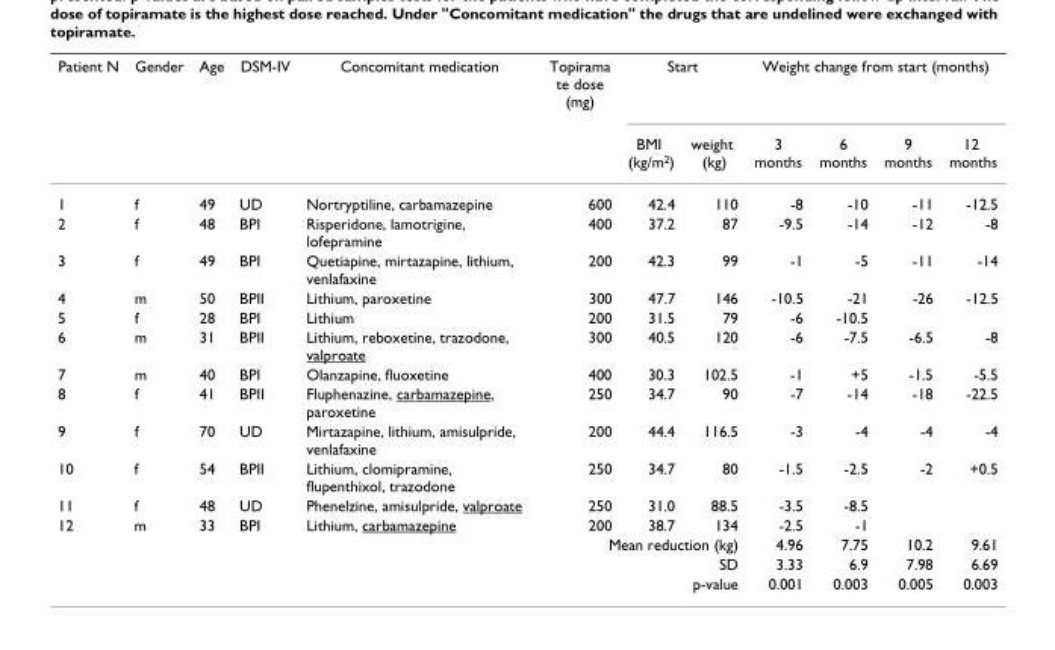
<table><thead><tr><td rowspan="2">Patient N</td><td rowspan="2">Gender</td><td rowspan="2">Age</td><td rowspan="2">DSM-IV</td><td rowspan="2">Concomitant medication</td><td rowspan="2">Topirama te dose (mg)</td><td colspan="2">Start</td><td colspan="4">Weight change from start (months)</td></tr><tr><td>BMI (kg/m<sup>2</sup>)</td><td>weight (kg)</td><td>3 months</td><td>6 months</td><td>9 months</td><td>12 months</td></tr></thead><tbody><tr><td>1</td><td>f</td><td>49</td><td>UD</td><td>Nortryptiline, carbamazepine</td><td>600</td><td>42.4</td><td>110</td><td>-8</td><td>-10</td><td>-11</td><td>-12.5</td></tr><tr><td>2</td><td>f</td><td>48</td><td>BPI</td><td>Risperidone, lamotrigine, lofepramine</td><td>400</td><td>37.2</td><td>87</td><td>-9.5</td><td>-14</td><td>-12</td><td>-8</td></tr><tr><td>3</td><td>f</td><td>49</td><td>BPI</td><td>Quetiapine, mirtazapine, lithium, venlafaxine</td><td>200</td><td>42.3</td><td>99</td><td>-1</td><td>-5</td><td>-11</td><td>-14</td></tr><tr><td>4</td><td>m</td><td>50</td><td>BPII</td><td>Lithium, paroxetine</td><td>300</td><td>47.7</td><td>146</td><td>-10.5</td><td>-21</td><td>-26</td><td>-12.5</td></tr><tr><td>5</td><td>f</td><td>28</td><td>BPI</td><td>Lithium</td><td>200</td><td>31.5</td><td>79</td><td>-6</td><td>-10.5</td><td></td><td></td></tr><tr><td>6</td><td>m</td><td>31</td><td>BPII</td><td>Lithium, reboxetine, trazodone, valproate</td><td>300</td><td>40.5</td><td>120</td><td>-6</td><td>-7.5</td><td>-6.5</td><td>-8</td></tr><tr><td>7</td><td>m</td><td>40</td><td>BPI</td><td>Olanzapine, fluoxetine</td><td>400</td><td>30.3</td><td>102.5</td><td>-1</td><td>+5</td><td>-1.5</td><td>-5.5</td></tr><tr><td>8</td><td>f</td><td>41</td><td>BPII</td><td>Fluphenazine, carbamazepine, paroxetine</td><td>250</td><td>34.7</td><td>90</td><td>-7</td><td>-14</td><td>-18</td><td>-22.5</td></tr><tr><td>9</td><td>f</td><td>70</td><td>UD</td><td>Mirtazapine, lithium, amisulpride, venlafaxine</td><td>200</td><td>44.4</td><td>116.5</td><td>-3</td><td>-4</td><td>-4</td><td>-4</td></tr><tr><td>10</td><td>f</td><td>54</td><td>BPII</td><td>Lithium, clomipramine, flupenthixol, trazodone</td><td>250</td><td>34.7</td><td>80</td><td>-1.5</td><td>-2.5</td><td>-2</td><td>+0.5</td></tr><tr><td>11</td><td>f</td><td>48</td><td>UD</td><td>Phenelzine, amisulpride, valproate</td><td>250</td><td>31.0</td><td>88.5</td><td>-3.5</td><td>-8.5</td><td></td><td></td></tr><tr><td>12</td><td>m</td><td>33</td><td>BPI</td><td>Lithium, carbamazepine</td><td>200</td><td>38.7</td><td>134</td><td>-2.5</td><td>-1</td><td></td><td></td></tr><tr><td colspan="8">Mean reduction (kg)</td><td>4.96</td><td>7.75</td><td>10.2</td><td>9.61</td></tr><tr><td colspan="8">SD</td><td>3.33</td><td>6.9</td><td>7.98</td><td>6.69</td></tr><tr><td colspan="8">p-value</td><td>0.001</td><td>0.003</td><td>0.005</td><td>0.003</td></tr></tbody></table>